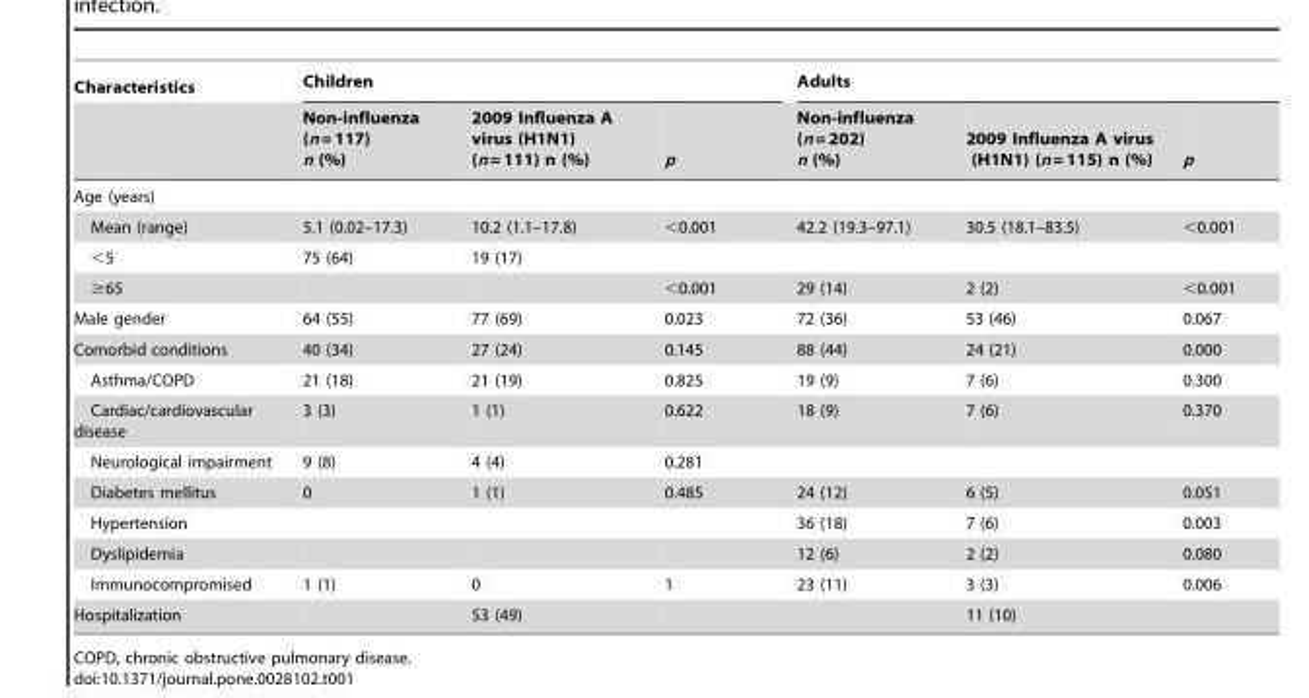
<table><thead><tr><td rowspan="2">Characteristics</td><td colspan="3">Children</td><td colspan="3">Adults</td></tr><tr><td>Non-influenza (n = 117) n (%)</td><td>2009 Influenza A virus (H1N1) (n = 111) n (%)</td><td>p</td><td>Non-influenza (n = 202) n (%)</td><td>2009 Influenza A virus (H1N1) (n = 115) n (%)</td><td>p</td></tr></thead><tbody><tr><td colspan="7">Age (years)</td></tr><tr><td>Mean (range)</td><td>5.1 (0.02–17.3)</td><td>10.2 (1.1–17.8)</td><td>&lt;0.001</td><td>42.2 (19.3–97.1)</td><td>30.5 (18.1–83.5)</td><td>&lt;0.001</td></tr><tr><td>&lt;5</td><td>75 (64)</td><td>19 (17)</td><td></td><td></td><td></td><td></td></tr><tr><td>≥65</td><td></td><td></td><td>&lt;0.001</td><td>29 (14)</td><td>2 (2)</td><td>&lt;0.001</td></tr><tr><td>Male gender</td><td>64 (55)</td><td>77 (69)</td><td>0.023</td><td>72 (36)</td><td>53 (46)</td><td>0.067</td></tr><tr><td>Comorbid conditions</td><td>40 (34)</td><td>27 (24)</td><td>0.145</td><td>88 (44)</td><td>24 (21)</td><td>0.000</td></tr><tr><td>Asthma/COPD</td><td>21 (18)</td><td>21 (19)</td><td>0.825</td><td>19 (9)</td><td>7 (6)</td><td>0.300</td></tr><tr><td>Cardiac/cardiovascular disease</td><td>3 (3)</td><td>1 (1)</td><td>0.622</td><td>18 (9)</td><td>7 (6)</td><td>0.370</td></tr><tr><td>Neurological impairment</td><td>9 (8)</td><td>4 (4)</td><td>0.281</td><td></td><td></td><td></td></tr><tr><td>Diabetes mellitus</td><td>0</td><td>1 (1)</td><td>0.485</td><td>24 (12)</td><td>6 (5)</td><td>0.051</td></tr><tr><td>Hypertension</td><td></td><td></td><td></td><td>36 (18)</td><td>7 (6)</td><td>0.003</td></tr><tr><td>Dyslipidemia</td><td></td><td></td><td></td><td>12 (6)</td><td>2 (2)</td><td>0.080</td></tr><tr><td>Immunocompromised</td><td>1 (1)</td><td>0</td><td>1</td><td>23 (11)</td><td>3 (3)</td><td>0.006</td></tr><tr><td>Hospitalization</td><td></td><td>53 (49)</td><td></td><td></td><td>11 (10)</td><td></td></tr></tbody></table>